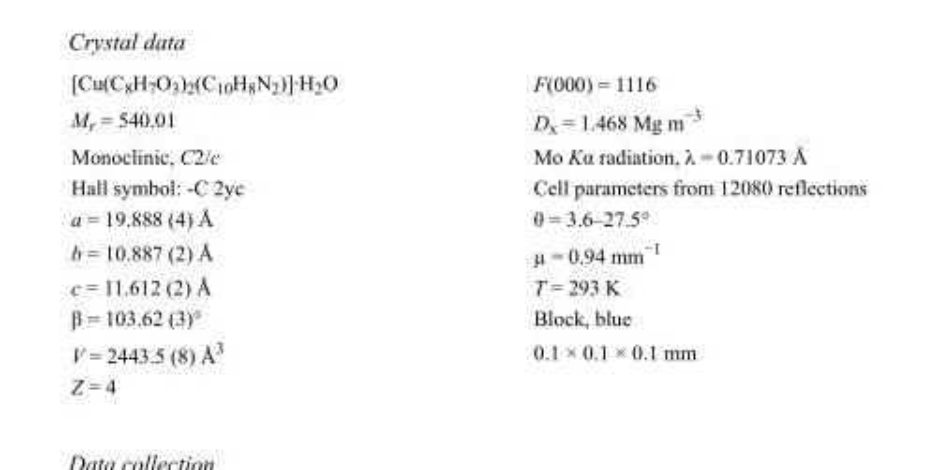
<table><tbody><tr><td>[Cu(C<sub>8</sub>H<sub>7</sub>O<sub>3</sub>)<sub>2</sub>(C<sub>10</sub>H<sub>8</sub>N<sub>2</sub>)]·H<sub>2</sub>O</td><td>F(000) = 1116</td></tr><tr><td>M<sub>r</sub> = 540.01</td><td>D<sub>x</sub> = 1.468 Mg m<sup>−3</sup></td></tr><tr><td>Monoclinic, C2/c</td><td>Mo Kα radiation, λ = 0.71073 Å</td></tr><tr><td>Hall symbol: -C 2yc</td><td>Cell parameters from 12080 reflections</td></tr><tr><td>a = 19.888 (4) Å</td><td>θ = 3.6–27.5°</td></tr><tr><td>b = 10.887 (2) Å</td><td>µ = 0.94 mm<sup>−1</sup></td></tr><tr><td>c = 11.612 (2) Å</td><td>T = 293 K</td></tr><tr><td>β = 103.62 (3)°</td><td>Block, blue</td></tr><tr><td>V = 2443.5 (8) Å<sup>3</sup></td><td>0.1 × 0.1 × 0.1 mm</td></tr><tr><td>Z = 4</td><td></td></tr></tbody></table>